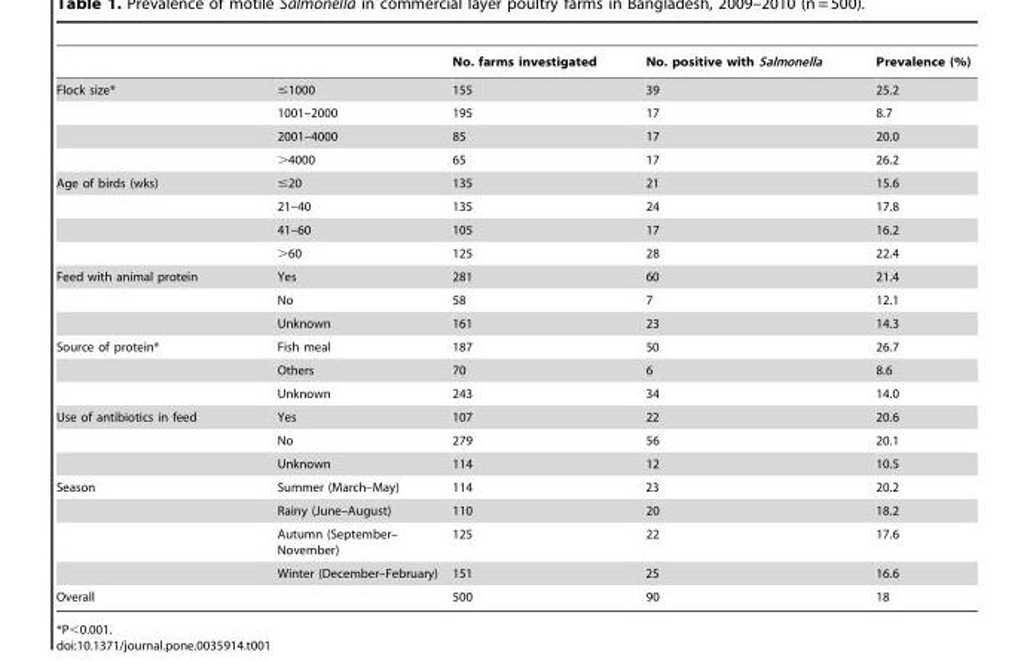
<table><thead><tr><td></td><td></td><td>No. farms investigated</td><td>No. positive with Salmonella</td><td>Prevalence (%)</td></tr></thead><tbody><tr><td rowspan="4">Flock size*</td><td>≤1000</td><td>155</td><td>39</td><td>25.2</td></tr><tr><td>1001–2000</td><td>195</td><td>17</td><td>8.7</td></tr><tr><td>2001–4000</td><td>85</td><td>17</td><td>20.0</td></tr><tr><td>&gt;4000</td><td>65</td><td>17</td><td>26.2</td></tr><tr><td rowspan="4">Age of birds (wks)</td><td>≤20</td><td>135</td><td>21</td><td>15.6</td></tr><tr><td>21–40</td><td>135</td><td>24</td><td>17.8</td></tr><tr><td>41–60</td><td>105</td><td>17</td><td>16.2</td></tr><tr><td>&gt;60</td><td>125</td><td>28</td><td>22.4</td></tr><tr><td rowspan="3">Feed with animal protein</td><td>Yes</td><td>281</td><td>60</td><td>21.4</td></tr><tr><td>No</td><td>58</td><td>7</td><td>12.1</td></tr><tr><td>Unknown</td><td>161</td><td>23</td><td>14.3</td></tr><tr><td rowspan="3">Source of protein*</td><td>Fish meal</td><td>187</td><td>50</td><td>26.7</td></tr><tr><td>Others</td><td>70</td><td>6</td><td>8.6</td></tr><tr><td>Unknown</td><td>243</td><td>34</td><td>14.0</td></tr><tr><td rowspan="3">Use of antibiotics in feed</td><td>Yes</td><td>107</td><td>22</td><td>20.6</td></tr><tr><td>No</td><td>279</td><td>56</td><td>20.1</td></tr><tr><td>Unknown</td><td>114</td><td>12</td><td>10.5</td></tr><tr><td rowspan="4">Season</td><td>Summer (March–May)</td><td>114</td><td>23</td><td>20.2</td></tr><tr><td>Rainy (June–August)</td><td>110</td><td>20</td><td>18.2</td></tr><tr><td>Autumn (September– November)</td><td>125</td><td>22</td><td>17.6</td></tr><tr><td>Winter (December–February)</td><td>151</td><td>25</td><td>16.6</td></tr><tr><td>Overall</td><td></td><td>500</td><td>90</td><td>18</td></tr></tbody></table>